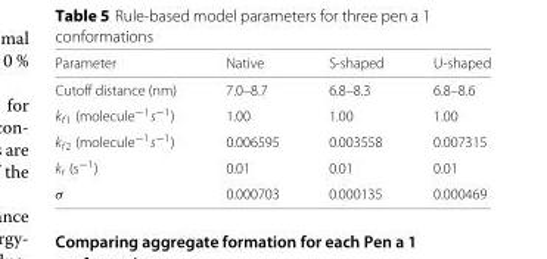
<table><thead><tr><td>Parameter</td><td>Native</td><td>S-shaped</td><td>U-shaped</td></tr></thead><tbody><tr><td>Cutoff distance (nm)</td><td>7.0–8.7</td><td>6.8–8.3</td><td>6.8–8.6</td></tr><tr><td>k<sub>f1</sub> (molecule<sup>−1</sup>s<sup>−1</sup>)</td><td>1.00</td><td>1.00</td><td>1.00</td></tr><tr><td>k<sub>f2</sub> (molecule<sup>−1</sup>s<sup>−1</sup>)</td><td>0.006595</td><td>0.003558</td><td>0.007315</td></tr><tr><td>k<sub>r</sub> (s<sup>−1</sup>)</td><td>0.01</td><td>0.01</td><td>0.01</td></tr><tr><td>σ</td><td>0.000703</td><td>0.000135</td><td>0.000469</td></tr></tbody></table>